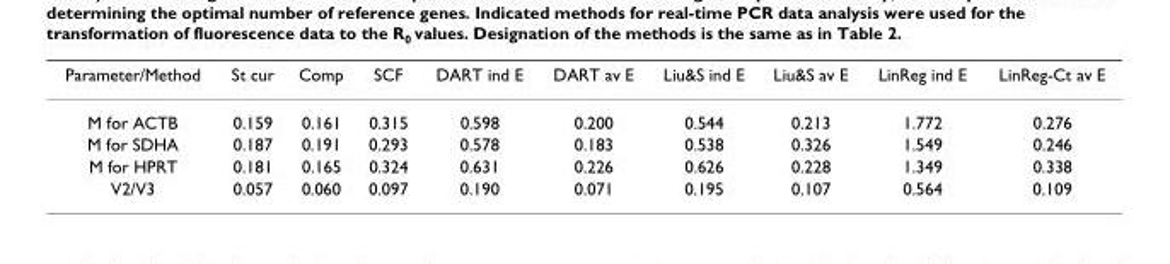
<table><thead><tr><td>Parameter/Method</td><td>St cur</td><td>Comp</td><td>SCF</td><td>DART ind E</td><td>DART av E</td><td>Liu&amp;S ind E</td><td>Liu&amp;S av E</td><td>LinReg ind E</td><td>LinReg-Ct av E</td></tr></thead><tbody><tr><td>M for ACTB</td><td>0.159</td><td>0.161</td><td>0.315</td><td>0.598</td><td>0.200</td><td>0.544</td><td>0.213</td><td>1.772</td><td>0.276</td></tr><tr><td>M for SDHA</td><td>0.187</td><td>0.191</td><td>0.293</td><td>0.578</td><td>0.183</td><td>0.538</td><td>0.326</td><td>1.549</td><td>0.246</td></tr><tr><td>M for HPRT</td><td>0.181</td><td>0.165</td><td>0.324</td><td>0.631</td><td>0.226</td><td>0.626</td><td>0.228</td><td>1.349</td><td>0.338</td></tr><tr><td>V2/V3</td><td>0.057</td><td>0.060</td><td>0.097</td><td>0.190</td><td>0.071</td><td>0.195</td><td>0.107</td><td>0.564</td><td>0.109</td></tr></tbody></table>